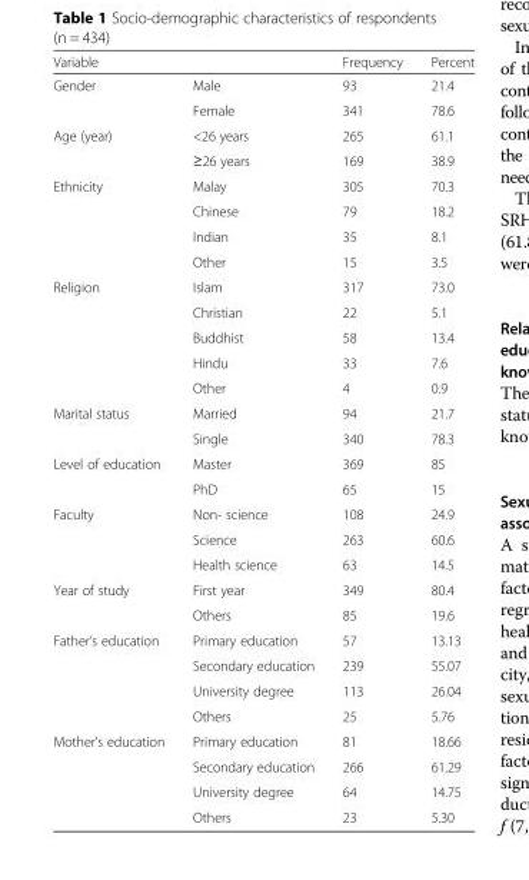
<table><thead><tr><td>Variable</td><td></td><td>Frequency</td><td>Percent</td></tr></thead><tbody><tr><td rowspan="2">Gender</td><td>Male</td><td>93</td><td>21.4</td></tr><tr><td>Female</td><td>341</td><td>78.6</td></tr><tr><td rowspan="2">Age (year)</td><td>&lt;26 years</td><td>265</td><td>61.1</td></tr><tr><td>≥26 years</td><td>169</td><td>38.9</td></tr><tr><td rowspan="4">Ethnicity</td><td>Malay</td><td>305</td><td>70.3</td></tr><tr><td>Chinese</td><td>79</td><td>18.2</td></tr><tr><td>Indian</td><td>35</td><td>8.1</td></tr><tr><td>Other</td><td>15</td><td>3.5</td></tr><tr><td rowspan="5">Religion</td><td>Islam</td><td>317</td><td>73.0</td></tr><tr><td>Christian</td><td>22</td><td>5.1</td></tr><tr><td>Buddhist</td><td>58</td><td>13.4</td></tr><tr><td>Hindu</td><td>33</td><td>7.6</td></tr><tr><td>Other</td><td>4</td><td>0.9</td></tr><tr><td rowspan="2">Marital status</td><td>Married</td><td>94</td><td>21.7</td></tr><tr><td>Single</td><td>340</td><td>78.3</td></tr><tr><td rowspan="2">Level of education</td><td>Master</td><td>369</td><td>85</td></tr><tr><td>PhD</td><td>65</td><td>15</td></tr><tr><td rowspan="3">Faculty</td><td>Non- science</td><td>108</td><td>24.9</td></tr><tr><td>Science</td><td>263</td><td>60.6</td></tr><tr><td>Health science</td><td>63</td><td>14.5</td></tr><tr><td rowspan="2">Year of study</td><td>First year</td><td>349</td><td>80.4</td></tr><tr><td>Others</td><td>85</td><td>19.6</td></tr><tr><td rowspan="4">Father’s education</td><td>Primary education</td><td>57</td><td>13.13</td></tr><tr><td>Secondary education</td><td>239</td><td>55.07</td></tr><tr><td>University degree</td><td>113</td><td>26.04</td></tr><tr><td>Others</td><td>25</td><td>5.76</td></tr><tr><td rowspan="4">Mother’s education</td><td>Primary education</td><td>81</td><td>18.66</td></tr><tr><td>Secondary education</td><td>266</td><td>61.29</td></tr><tr><td>University degree</td><td>64</td><td>14.75</td></tr><tr><td>Others</td><td>23</td><td>5.30</td></tr></tbody></table>